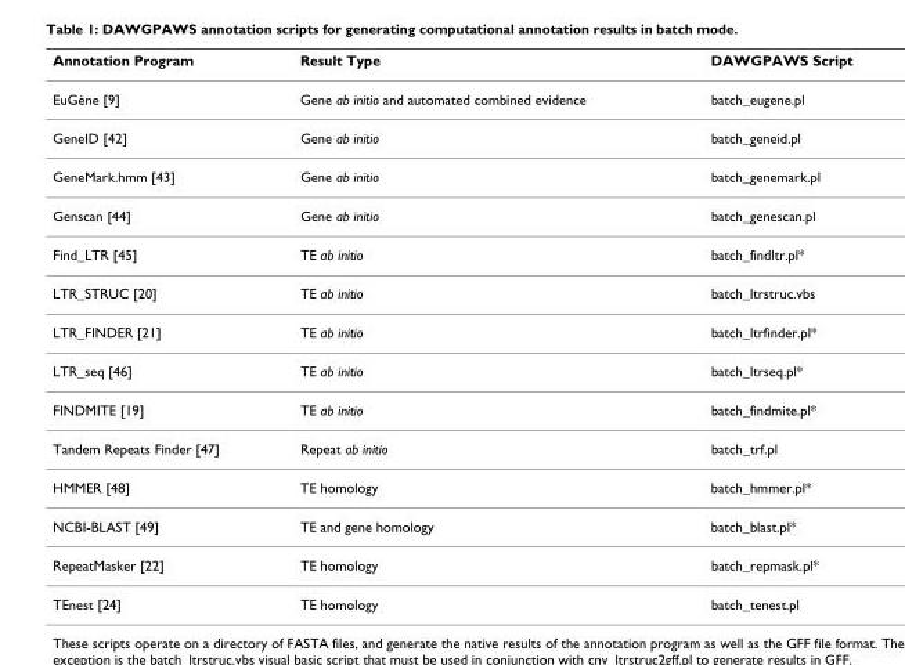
<table><thead><tr><td>Annotation Program</td><td>Result Type</td><td>DAWGPAWS Script</td></tr></thead><tbody><tr><td>EuGène [9]</td><td>Gene ab initio and automated combined evidence</td><td>batch_eugene.pl</td></tr><tr><td>GeneID [42]</td><td>Gene ab initio</td><td>batch_geneid.pl</td></tr><tr><td>GeneMark.hmm [43]</td><td>Gene ab initio</td><td>batch_genemark.pl</td></tr><tr><td>Genscan [44]</td><td>Gene ab initio</td><td>batch_genescan.pl</td></tr><tr><td>Find_LTR [45]</td><td>TE ab initio</td><td>batch_findltr.pl*</td></tr><tr><td>LTR_STRUC [20]</td><td>TE ab initio</td><td>batch_ltrstruc.vbs</td></tr><tr><td>LTR_FINDER [21]</td><td>TE ab initio</td><td>batch_ltrfinder.pl*</td></tr><tr><td>LTR_seq [46]</td><td>TE ab initio</td><td>batch_ltrseq.pl*</td></tr><tr><td>FINDMITE [19]</td><td>TE ab initio</td><td>batch_findmite.pl*</td></tr><tr><td>Tandem Repeats Finder [47]</td><td>Repeat ab initio</td><td>batch_trf.pl</td></tr><tr><td>HMMER [48]</td><td>TE homology</td><td>batch_hmmer.pl*</td></tr><tr><td>NCBI-BLAST [49]</td><td>TE and gene homology</td><td>batch_blast.pl*</td></tr><tr><td>RepeatMasker [22]</td><td>TE homology</td><td>batch_repmask.pl*</td></tr><tr><td>TEnest [24]</td><td>TE homology</td><td>batch_tenest.pl</td></tr></tbody></table>